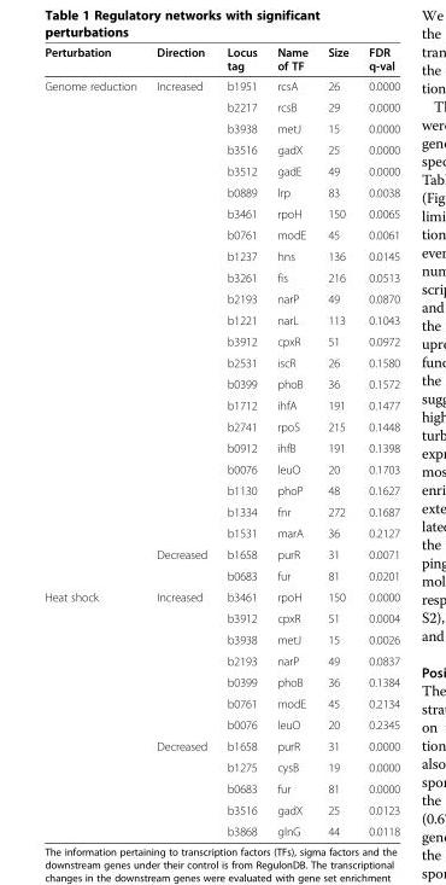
<table><thead><tr><td>Perturbation</td><td>Direction</td><td>Locus tag</td><td>Name of TF</td><td>Size</td><td>FDR q-val</td></tr></thead><tbody><tr><td rowspan="24">Genome reduction</td><td rowspan="22">Increased</td><td>b1951</td><td>rcsA</td><td>26</td><td>0.0000</td></tr><tr><td>b2217</td><td>rcsB</td><td>29</td><td>0.0000</td></tr><tr><td>b3938</td><td>metJ</td><td>15</td><td>0.0000</td></tr><tr><td>b3516</td><td>gadX</td><td>25</td><td>0.0000</td></tr><tr><td>b3512</td><td>gadE</td><td>49</td><td>0.0000</td></tr><tr><td>b0889</td><td>lrp</td><td>83</td><td>0.0038</td></tr><tr><td>b3461</td><td>rpoH</td><td>150</td><td>0.0065</td></tr><tr><td>b0761</td><td>modE</td><td>45</td><td>0.0061</td></tr><tr><td>b1237</td><td>hns</td><td>136</td><td>0.0145</td></tr><tr><td>b3261</td><td>fis</td><td>216</td><td>0.0513</td></tr><tr><td>b2193</td><td>narP</td><td>49</td><td>0.0870</td></tr><tr><td>b1221</td><td>narL</td><td>113</td><td>0.1043</td></tr><tr><td>b3912</td><td>cpxR</td><td>51</td><td>0.0972</td></tr><tr><td>b2531</td><td>iscR</td><td>26</td><td>0.1580</td></tr><tr><td>b0399</td><td>phoB</td><td>36</td><td>0.1572</td></tr><tr><td>b1712</td><td>ihfA</td><td>191</td><td>0.1477</td></tr><tr><td>b2741</td><td>rpoS</td><td>215</td><td>0.1448</td></tr><tr><td>b0912</td><td>ihfB</td><td>191</td><td>0.1398</td></tr><tr><td>b0076</td><td>leuO</td><td>20</td><td>0.1703</td></tr><tr><td>b1130</td><td>phoP</td><td>48</td><td>0.1627</td></tr><tr><td>b1334</td><td>fnr</td><td>272</td><td>0.1687</td></tr><tr><td>b1531</td><td>marA</td><td>36</td><td>0.2127</td></tr><tr><td rowspan="2">Decreased</td><td>b1658</td><td>purR</td><td>31</td><td>0.0071</td></tr><tr><td>b0683</td><td>fur</td><td>81</td><td>0.0201</td></tr><tr><td rowspan="12">Heat shock</td><td rowspan="7">Increased</td><td>b3461</td><td>rpoH</td><td>150</td><td>0.0000</td></tr><tr><td>b3912</td><td>cpxR</td><td>51</td><td>0.0004</td></tr><tr><td>b3938</td><td>metJ</td><td>15</td><td>0.0026</td></tr><tr><td>b2193</td><td>narP</td><td>49</td><td>0.0837</td></tr><tr><td>b0399</td><td>phoB</td><td>36</td><td>0.1384</td></tr><tr><td>b0761</td><td>modE</td><td>45</td><td>0.2134</td></tr><tr><td>b0076</td><td>leuO</td><td>20</td><td>0.2345</td></tr><tr><td rowspan="5">Decreased</td><td>b1658</td><td>purR</td><td>31</td><td>0.0000</td></tr><tr><td>b1275</td><td>cysB</td><td>19</td><td>0.0000</td></tr><tr><td>b0683</td><td>fur</td><td>81</td><td>0.0000</td></tr><tr><td>b3516</td><td>gadX</td><td>25</td><td>0.0123</td></tr><tr><td>b3868</td><td>glnG</td><td>44</td><td>0.0118</td></tr></tbody></table>